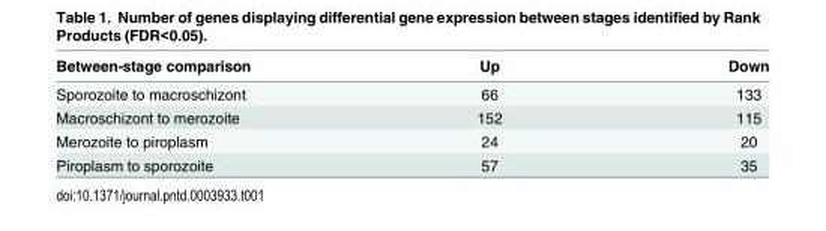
<table><thead><tr><td>Between-stage comparison</td><td>Up</td><td>Down</td></tr></thead><tbody><tr><td>Sporozoite to macroschizont</td><td>66</td><td>133</td></tr><tr><td>Macroschizont to merozoite</td><td>152</td><td>115</td></tr><tr><td>Merozoite to piroplasm</td><td>24</td><td>20</td></tr><tr><td>Piroplasm to sporozoite</td><td>57</td><td>35</td></tr></tbody></table>